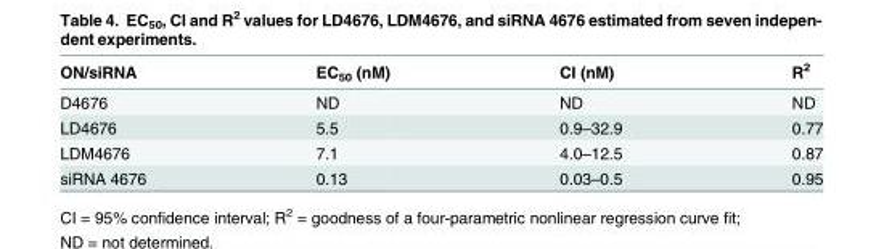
<table><thead><tr><td>ON/siRNA</td><td>EC<sub>50</sub> (nM)</td><td>CI (nM)</td><td>R<sup>2</sup></td></tr></thead><tbody><tr><td>D4676</td><td>ND</td><td>ND</td><td>ND</td></tr><tr><td>LD4676</td><td>5.5</td><td>0.9–32.9</td><td>0.77</td></tr><tr><td>LDM4676</td><td>7.1</td><td>4.0–12.5</td><td>0.87</td></tr><tr><td>siRNA 4676</td><td>0.13</td><td>0.03–0.5</td><td>0.95</td></tr></tbody></table>